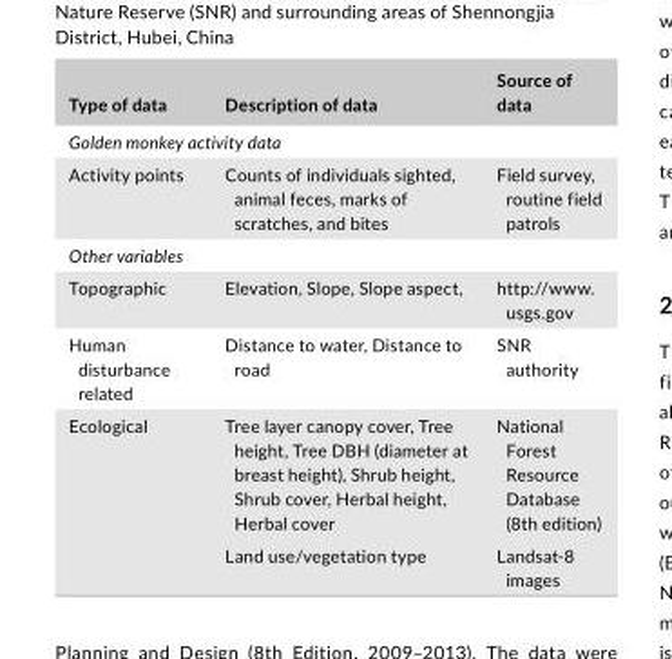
<table><thead><tr><td>Type of data</td><td>Description of data</td><td>Source of data</td></tr></thead><tbody><tr><td colspan="3">Golden monkey activity data</td></tr><tr><td>Activity points</td><td>Counts of individuals sighted, animal feces, marks of scratches, and bites</td><td>Field survey, routine field patrols</td></tr><tr><td colspan="3">Other variables</td></tr><tr><td>Topographic</td><td>Elevation, Slope, Slope aspect,</td><td>http://www. usgs.gov</td></tr><tr><td>Human disturbance related</td><td>Distance to water, Distance to road</td><td>SNR authority</td></tr><tr><td rowspan="2">Ecological</td><td>Tree layer canopy cover, Tree height, Tree DBH (diameter at breast height), Shrub height, Shrub cover, Herbal height, Herbal cover</td><td>National Forest Resource Database (8th edition)</td></tr><tr><td>Land use/vegetation type</td><td>Landsat- 8 images</td></tr></tbody></table>